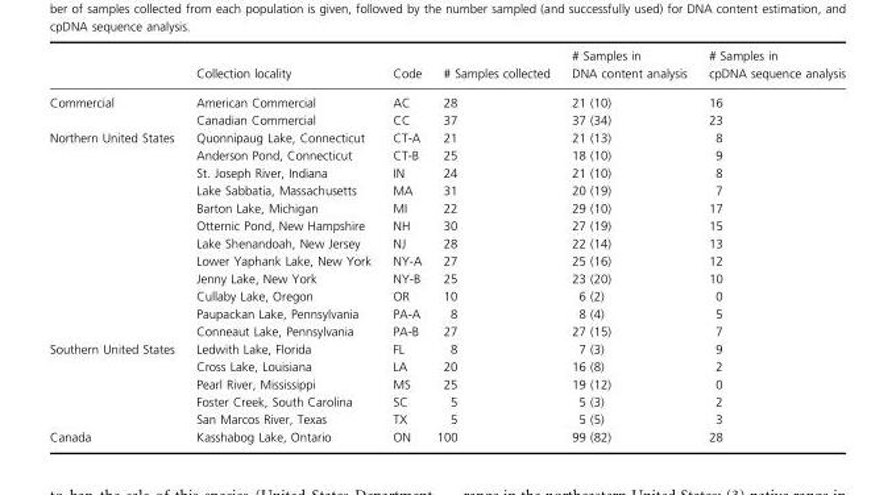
<table><thead><tr><td></td><td>Collection locality</td><td>Code</td><td># Samples collected</td><td># Samples in DNA content analysis</td><td># Samples in cpDNA sequence analysis</td></tr></thead><tbody><tr><td rowspan="2">Commercial</td><td>American Commercial</td><td>AC</td><td>28</td><td>21 (10)</td><td>16</td></tr><tr><td>Canadian Commercial</td><td>CC</td><td>37</td><td>37 (34)</td><td>23</td></tr><tr><td rowspan="12">Northern United States</td><td>Quonnipaug Lake, Connecticut</td><td>CT-A</td><td>21</td><td>21 (13)</td><td>8</td></tr><tr><td>Anderson Pond, Connecticut</td><td>CT-B</td><td>25</td><td>18 (10)</td><td>9</td></tr><tr><td>St. Joseph River, Indiana</td><td>IN</td><td>24</td><td>21 (10)</td><td>8</td></tr><tr><td>Lake Sabbatia, Massachusetts</td><td>MA</td><td>31</td><td>20 (19)</td><td>7</td></tr><tr><td>Barton Lake, Michigan</td><td>MI</td><td>22</td><td>29 (10)</td><td>17</td></tr><tr><td>Otternic Pond, New Hampshire</td><td>NH</td><td>30</td><td>27 (19)</td><td>15</td></tr><tr><td>Lake Shenandoah, New Jersey</td><td>NJ</td><td>28</td><td>22 (14)</td><td>13</td></tr><tr><td>Lower Yaphank Lake, New York</td><td>NY-A</td><td>27</td><td>25 (16)</td><td>12</td></tr><tr><td>Jenny Lake, New York</td><td>NY-B</td><td>25</td><td>23 (20)</td><td>10</td></tr><tr><td>Cullaby Lake, Oregon</td><td>OR</td><td>10</td><td>6 (2)</td><td>0</td></tr><tr><td>Paupackan Lake, Pennsylvania</td><td>PA-A</td><td>8</td><td>8 (4)</td><td>5</td></tr><tr><td>Conneaut Lake, Pennsylvania</td><td>PA-B</td><td>27</td><td>27 (15)</td><td>7</td></tr><tr><td rowspan="5">Southern United States</td><td>Ledwith Lake, Florida</td><td>FL</td><td>8</td><td>7 (3)</td><td>9</td></tr><tr><td>Cross Lake, Louisiana</td><td>LA</td><td>20</td><td>16 (8)</td><td>2</td></tr><tr><td>Pearl River, Mississippi</td><td>MS</td><td>25</td><td>19 (12)</td><td>0</td></tr><tr><td>Foster Creek, South Carolina</td><td>SC</td><td>5</td><td>5 (3)</td><td>2</td></tr><tr><td>San Marcos River, Texas</td><td>TX</td><td>5</td><td>5 (5)</td><td>3</td></tr><tr><td>Canada</td><td>Kasshabog Lake, Ontario</td><td>ON</td><td>100</td><td>99 (82)</td><td>28</td></tr></tbody></table>